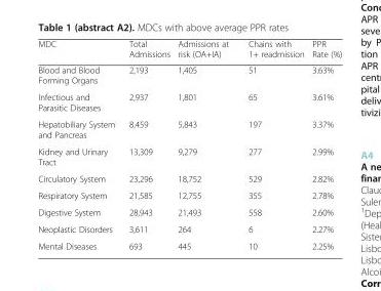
<table><thead><tr><td>MDC</td><td>Total Admissions</td><td>Admissions at risk (OA+IA)</td><td>Chains with 1+ readmission</td><td>PPR Rate (%)</td></tr></thead><tbody><tr><td>Blood and Blood Forming Organs</td><td>2,193</td><td>1,405</td><td>51</td><td>3.63%</td></tr><tr><td>Infectious and Parasitic Diseases</td><td>2,937</td><td>1,801</td><td>65</td><td>3.61%</td></tr><tr><td>Hepatobiliary System and Pancreas</td><td>8,459</td><td>5,843</td><td>197</td><td>3.37%</td></tr><tr><td>Kidney and Urinary Tract</td><td>13,309</td><td>9,279</td><td>277</td><td>2.99%</td></tr><tr><td>Circulatory System</td><td>23,296</td><td>18,752</td><td>529</td><td>2.82%</td></tr><tr><td>Respiratory System</td><td>21,585</td><td>12,755</td><td>355</td><td>2.78%</td></tr><tr><td>Digestive System</td><td>28,943</td><td>21,493</td><td>558</td><td>2.60%</td></tr><tr><td>Neoplastic Disorders</td><td>3,611</td><td>264</td><td>6</td><td>2.27%</td></tr><tr><td>Mental Diseases</td><td>693</td><td>445</td><td>10</td><td>2.25%</td></tr></tbody></table>